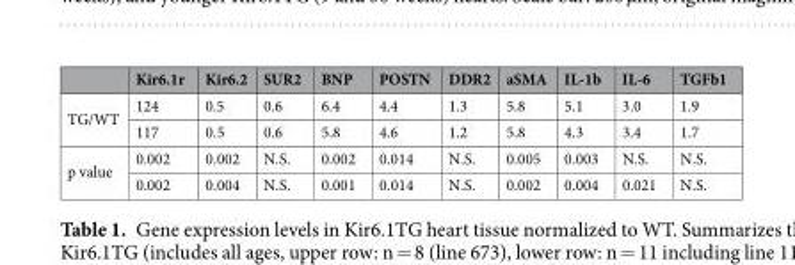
<table><thead><tr><td></td><td>Kir6.1r</td><td>Kir6.2</td><td>SUR2</td><td>BNP</td><td>POSTN</td><td>DDR2</td><td>aSMA</td><td>IL-1b</td><td>IL-6</td><td>TGFb1</td></tr></thead><tbody><tr><td rowspan="2">TG/WT</td><td>124</td><td>0.5</td><td>0.6</td><td>6.4</td><td>4.4</td><td>1.3</td><td>5.8</td><td>5.1</td><td>3.0</td><td>1.9</td></tr><tr><td>117</td><td>0.5</td><td>0.6</td><td>5.8</td><td>4.6</td><td>1.2</td><td>5.8</td><td>4.3</td><td>3.4</td><td>1.7</td></tr><tr><td rowspan="2">p value</td><td>0.002</td><td>0.002</td><td>N.S.</td><td>0.002</td><td>0.014</td><td>N.S.</td><td>0.005</td><td>0.003</td><td>N.S.</td><td>N.S.</td></tr><tr><td>0.002</td><td>0.004</td><td>N.S.</td><td>0.001</td><td>0.014</td><td>N.S.</td><td>0.002</td><td>0.004</td><td>0.021</td><td>N.S.</td></tr></tbody></table>